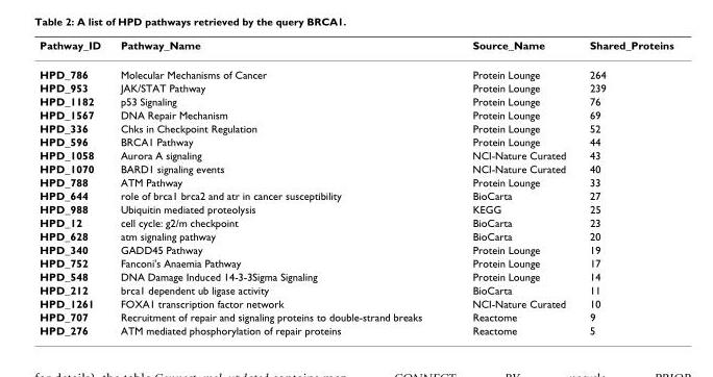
<table><thead><tr><td>Pathway_ID</td><td>Pathway_Name</td><td>Source_Name</td><td>Shared_Proteins</td></tr></thead><tbody><tr><td>HPD_786</td><td>Molecular Mechanisms of Cancer</td><td>Protein Lounge</td><td>264</td></tr><tr><td>HPD_953</td><td>JAK/STAT Pathway</td><td>Protein Lounge</td><td>239</td></tr><tr><td>HPD_1182</td><td>p53 Signaling</td><td>Protein Lounge</td><td>76</td></tr><tr><td>HPD_1567</td><td>DNA Repair Mechanism</td><td>Protein Lounge</td><td>69</td></tr><tr><td>HPD_336</td><td>Chks in Checkpoint Regulation</td><td>Protein Lounge</td><td>52</td></tr><tr><td>HPD_596</td><td>BRCA1 Pathway</td><td>Protein Lounge</td><td>44</td></tr><tr><td>HPD_1058</td><td>Aurora A signaling</td><td>NCI-Nature Curated</td><td>43</td></tr><tr><td>HPD_1070</td><td>BARD1 signaling events</td><td>NCI-Nature Curated</td><td>40</td></tr><tr><td>HPD_788</td><td>ATM Pathway</td><td>Protein Lounge</td><td>33</td></tr><tr><td>HPD_644</td><td>role of brca1 brca2 and atr in cancer susceptibility</td><td>BioCarta</td><td>27</td></tr><tr><td>HPD_988</td><td>Ubiquitin mediated proteolysis</td><td>KEGG</td><td>25</td></tr><tr><td>HPD_12</td><td>cell cycle: g2/m checkpoint</td><td>BioCarta</td><td>23</td></tr><tr><td>HPD_628</td><td>atm signaling pathway</td><td>BioCarta</td><td>20</td></tr><tr><td>HPD_340</td><td>GADD45 Pathway</td><td>Protein Lounge</td><td>19</td></tr><tr><td>HPD_752</td><td>Fanconi&#x27;s Anaemia Pathway</td><td>Protein Lounge</td><td>17</td></tr><tr><td>HPD_548</td><td>DNA Damage Induced 14-3-3Sigma Signaling</td><td>Protein Lounge</td><td>14</td></tr><tr><td>HPD_212</td><td>brca1 dependent ub ligase activity</td><td>BioCarta</td><td>11</td></tr><tr><td>HPD_1261</td><td>FOXA1 transcription factor network</td><td>NCI-Nature Curated</td><td>10</td></tr><tr><td>HPD_707</td><td>Recruitment of repair and signaling proteins to double-strand breaks</td><td>Reactome</td><td>9</td></tr><tr><td>HPD_276</td><td>ATM mediated phosphorylation of repair proteins</td><td>Reactome</td><td>5</td></tr></tbody></table>